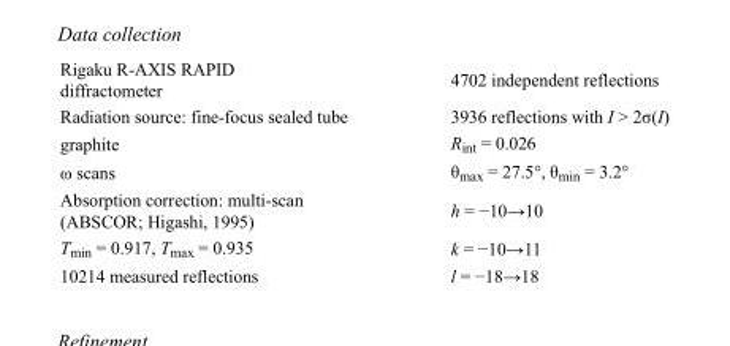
<table><tbody><tr><td>Rigaku R-AXIS RAPID diffractometer</td><td>4702 independent reflections</td></tr><tr><td>Radiation source: fine-focus sealed tube</td><td>3936 reflections with I &gt; 2σ(I)</td></tr><tr><td>graphite</td><td>R<sub>int</sub> = 0.026</td></tr><tr><td>ω scans</td><td>θ<sub>max</sub> = 27.5°, θ<sub>min</sub> = 3.2°</td></tr><tr><td>Absorption correction: multi-scan (ABSCOR; Higashi, 1995)</td><td>h = −10→10</td></tr><tr><td>T<sub>min</sub> = 0.917, T<sub>max</sub> = 0.935</td><td>k = −10→11</td></tr><tr><td>10214 measured reflections</td><td>l = −18→18</td></tr></tbody></table>